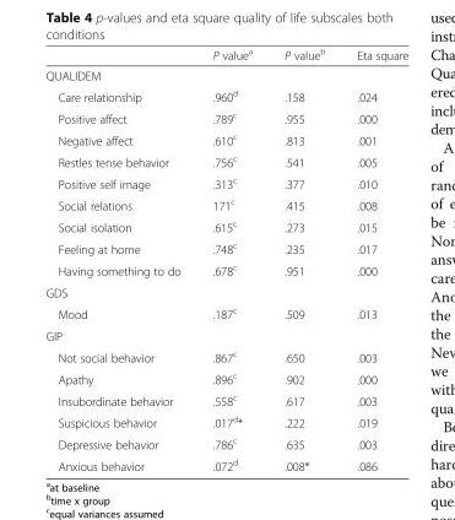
<table><thead><tr><td></td><td>P value<sup>a</sup></td><td>P value<sup>b</sup></td><td>Eta square</td></tr></thead><tbody><tr><td colspan="4">QUALIDEM</td></tr><tr><td>Care relationship</td><td>.960<sup>d</sup></td><td>.158</td><td>.024</td></tr><tr><td>Positive affect</td><td>.789<sup>c</sup></td><td>.955</td><td>.000</td></tr><tr><td>Negative affect</td><td>.610<sup>c</sup></td><td>.813</td><td>.001</td></tr><tr><td>Restles tense behavior</td><td>.756<sup>c</sup></td><td>.541</td><td>.005</td></tr><tr><td>Positive self image</td><td>.313<sup>c</sup></td><td>.377</td><td>.010</td></tr><tr><td>Social relations</td><td>171<sup>c</sup></td><td>.415</td><td>.008</td></tr><tr><td>Social isolation</td><td>.615<sup>c</sup></td><td>.273</td><td>.015</td></tr><tr><td>Feeling at home</td><td>.748<sup>c</sup></td><td>.235</td><td>.017</td></tr><tr><td>Having something to do</td><td>.678<sup>c</sup></td><td>.951</td><td>.000</td></tr><tr><td colspan="4">GDS</td></tr><tr><td>Mood</td><td>.187<sup>c</sup></td><td>.509</td><td>.013</td></tr><tr><td colspan="4">GIP</td></tr><tr><td>Not social behavior</td><td>.867<sup>c</sup></td><td>.650</td><td>.003</td></tr><tr><td>Apathy</td><td>.896<sup>c</sup></td><td>.902</td><td>.000</td></tr><tr><td>Insubordinate behavior</td><td>.558<sup>c</sup></td><td>.617</td><td>.003</td></tr><tr><td>Suspicious behavior</td><td>.017<sup>d</sup>*</td><td>.222</td><td>.019</td></tr><tr><td>Depressive behavior</td><td>.786<sup>c</sup></td><td>.635</td><td>.003</td></tr><tr><td>Anxious behavior</td><td>.072<sup>d</sup></td><td>.008*</td><td>.086</td></tr></tbody></table>